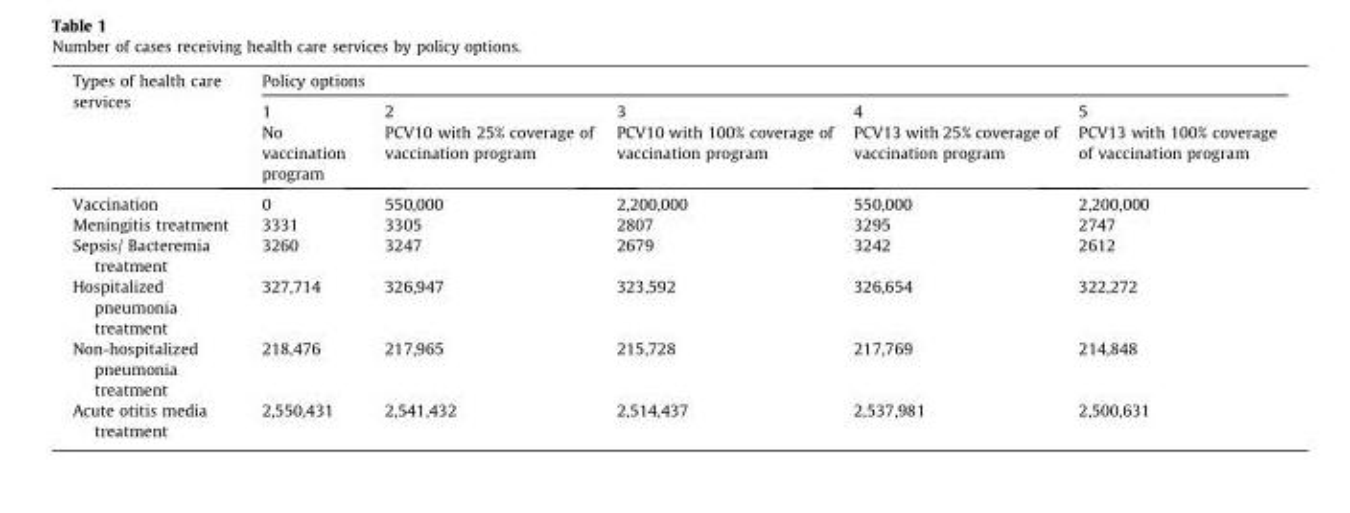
<table><thead><tr><td rowspan="3">Types of health care services</td><td colspan="5">Policy options</td></tr><tr><td rowspan="2">1 No vaccination program</td><td rowspan="2">2 PCV10 with 25% coverage of vaccination program</td><td rowspan="2">3 PCV10 with 100% coverage of vaccination program</td><td rowspan="2">4 PCV13 with 25% coverage of vaccination program</td><td rowspan="2">5 PCV13 with 100% coverage of vaccination program</td></tr><tr></tr></thead><tbody><tr><td>Vaccination</td><td>0</td><td>550,000</td><td>2,200,000</td><td>550,000</td><td>2,200,000</td></tr><tr><td>Meningitis treatment</td><td>3331</td><td>3305</td><td>2807</td><td>3295</td><td>2747</td></tr><tr><td>Sepsis/ Bacteremia treatment</td><td>3260</td><td>3247</td><td>2679</td><td>3242</td><td>2612</td></tr><tr><td>Hospitalized pneumonia treatment</td><td>327,714</td><td>326,947</td><td>323,592</td><td>326,654</td><td>322,272</td></tr><tr><td>Non-hospitalized pneumonia treatment</td><td>218,476</td><td>217,965</td><td>215,728</td><td>217,769</td><td>214,848</td></tr><tr><td>Acute otitis media treatment</td><td>2,550,431</td><td>2,541,432</td><td>2,514,437</td><td>2,537,981</td><td>2,500,631</td></tr></tbody></table>